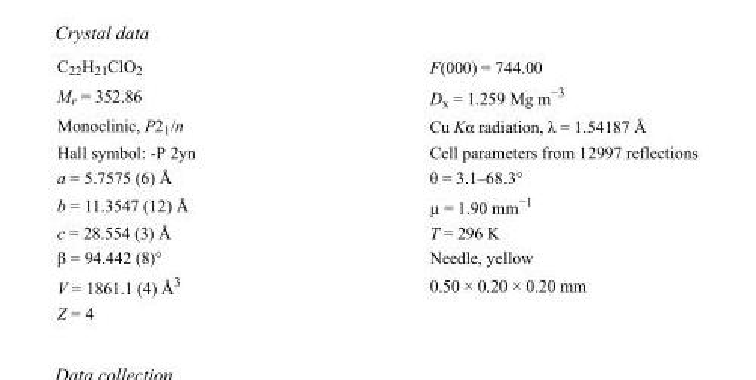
<table><tbody><tr><td>C<sub>22</sub>H<sub>21</sub>ClO<sub>2</sub></td><td>F(000) = 744.00</td></tr><tr><td>M<sub>r</sub> = 352.86</td><td>D<sub>x</sub> = 1.259 Mg m<sup>−3</sup></td></tr><tr><td>Monoclinic, P2<sub>1</sub>/n</td><td>Cu Kα radiation, λ = 1.54187 Å</td></tr><tr><td>Hall symbol: -P 2yn</td><td>Cell parameters from 12997 reflections</td></tr><tr><td>a = 5.7575 (6) Å</td><td>θ = 3.1–68.3°</td></tr><tr><td>b = 11.3547 (12) Å</td><td>µ = 1.90 mm<sup>−1</sup></td></tr><tr><td>c = 28.554 (3) Å</td><td>T = 296 K</td></tr><tr><td>β = 94.442 (8)°</td><td>Needle, yellow</td></tr><tr><td>V = 1861.1 (4) Å<sup>3</sup></td><td>0.50 × 0.20 × 0.20 mm</td></tr><tr><td>Z = 4</td><td></td></tr></tbody></table>